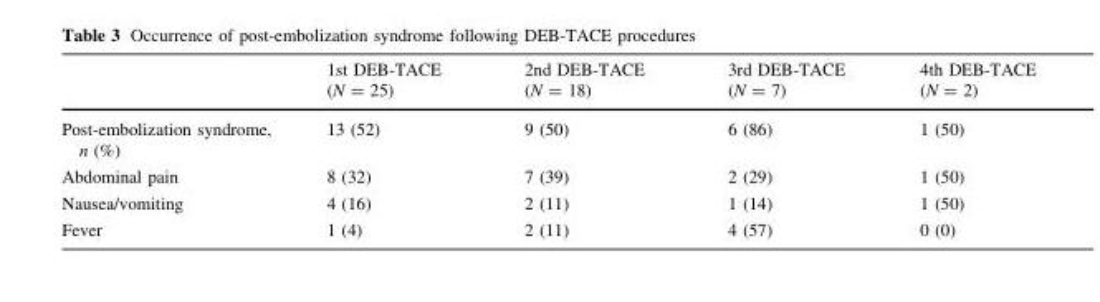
<table><thead><tr><td></td><td>1st DEB-TACE (N = 25)</td><td>2nd DEB-TACE (N = 18)</td><td>3rd DEB-TACE (N = 7)</td><td>4th DEB-TACE (N = 2)</td></tr></thead><tbody><tr><td>Post-embolization syndrome, n (%)</td><td>13 (52)</td><td>9 (50)</td><td>6 (86)</td><td>1 (50)</td></tr><tr><td>Abdominal pain</td><td>8 (32)</td><td>7 (39)</td><td>2 (29)</td><td>1 (50)</td></tr><tr><td>Nausea/vomiting</td><td>4 (16)</td><td>2 (11)</td><td>1 (14)</td><td>1 (50)</td></tr><tr><td>Fever</td><td>1 (4)</td><td>2 (11)</td><td>4 (57)</td><td>0 (0)</td></tr></tbody></table>